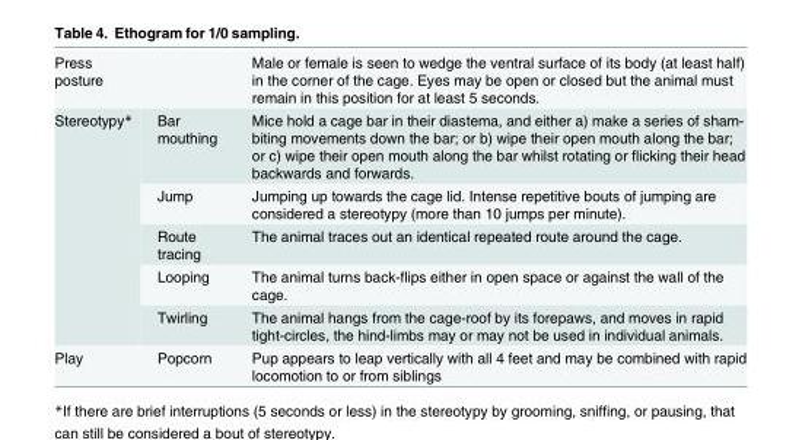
<table><tbody><tr><td>Press posture</td><td></td><td>Male or female is seen to wedge the ventral surface of its body (at least half) in the corner of the cage. Eyes may be open or closed but the animal must remain in this position for at least 5 seconds.</td></tr><tr><td rowspan="5">Stereotypy*</td><td>Bar mouthing</td><td>Mice hold a cage bar in their diastema, and either a) make a series of sham- biting movements down the bar; or b) wipe their open mouth along the bar; or c) wipe their open mouth along the bar whilst rotating or flicking their head backwards and forwards.</td></tr><tr><td>Jump</td><td>Jumping up towards the cage lid. Intense repetitive bouts of jumping are considered a stereotypy (more than 10 jumps per minute).</td></tr><tr><td>Route tracing</td><td>The animal traces out an identical repeated route around the cage.</td></tr><tr><td>Looping</td><td>The animal turns back-flips either in open space or against the wall of the cage.</td></tr><tr><td>Twirling</td><td>The animal hangs from the cage-roof by its forepaws, and moves in rapid tight-circles, the hind-limbs may or may not be used in individual animals.</td></tr><tr><td>Play</td><td>Popcorn</td><td>Pup appears to leap vertically with all 4 feet and may be combined with rapid locomotion to or from siblings</td></tr></tbody></table>